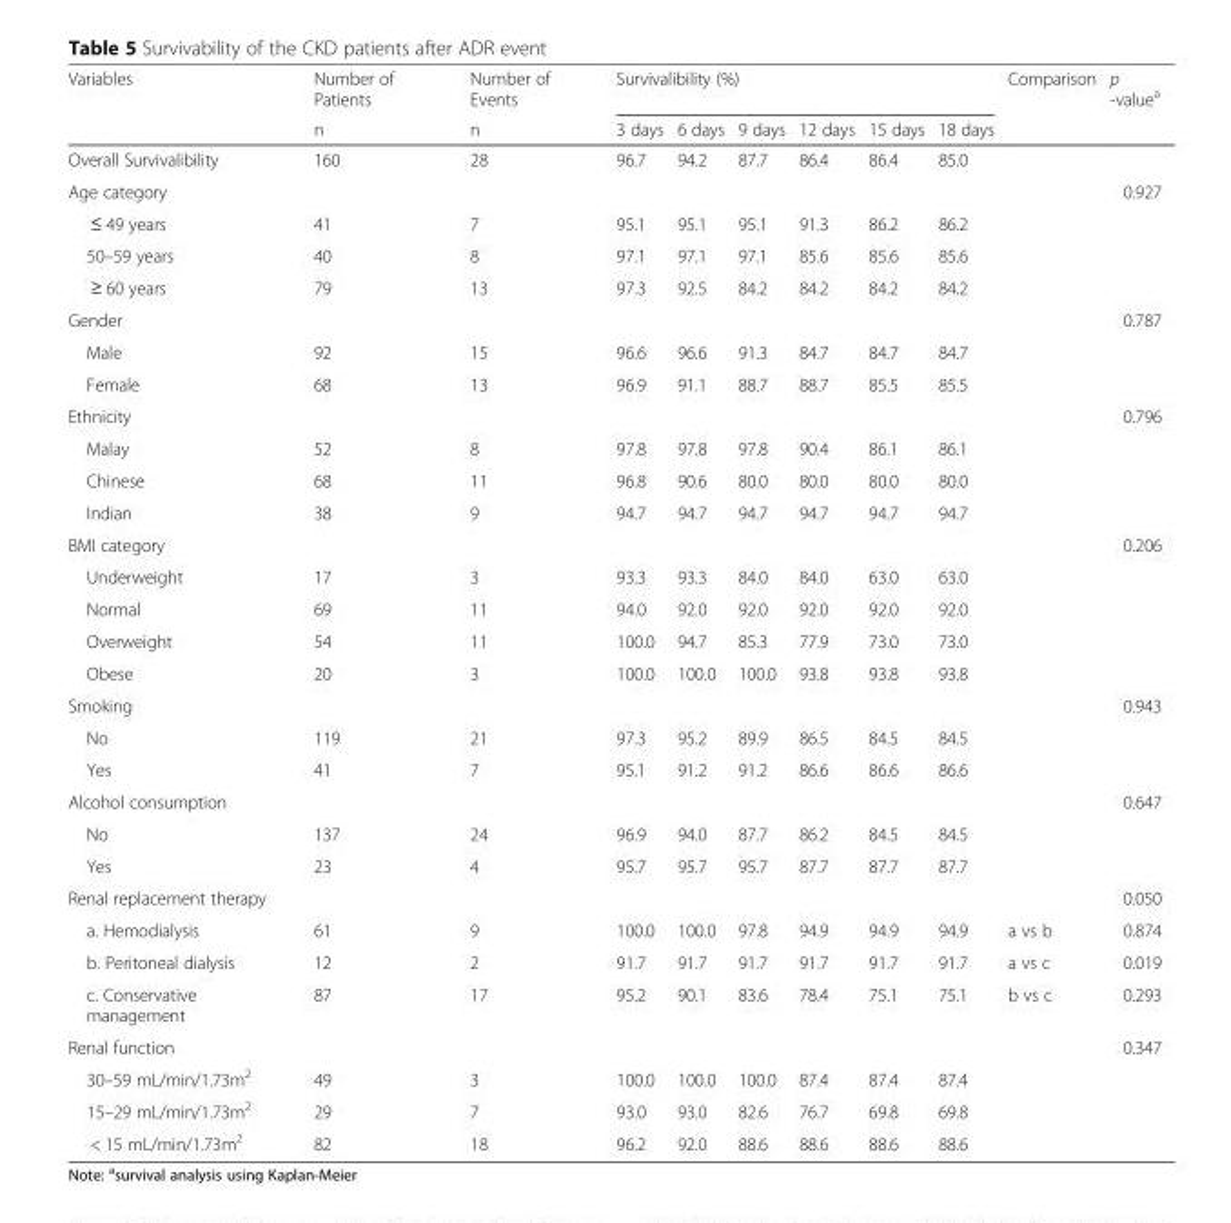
<table><thead><tr><td rowspan="2">Variables</td><td rowspan="2">Number of Patients n</td><td rowspan="2">Number of Events n</td><td colspan="6">Survivalibility (%)</td><td rowspan="2">Comparison</td><td rowspan="2">p -value<sup>a</sup></td></tr><tr><td>3 days</td><td>6 days</td><td>9 days</td><td>12 days</td><td>15 days</td><td>18 days</td></tr></thead><tbody><tr><td>Overall Survivalibility</td><td>160</td><td>28</td><td>96.7</td><td>94.2</td><td>87.7</td><td>86.4</td><td>86.4</td><td>85.0</td><td></td><td></td></tr><tr><td colspan="10">Age category</td><td>0.927</td></tr><tr><td>≤ 49 years</td><td>41</td><td>7</td><td>95.1</td><td>95.1</td><td>95.1</td><td>91.3</td><td>86.2</td><td>86.2</td><td></td><td></td></tr><tr><td>50–59 years</td><td>40</td><td>8</td><td>97.1</td><td>97.1</td><td>97.1</td><td>85.6</td><td>85.6</td><td>85.6</td><td></td><td></td></tr><tr><td>≥ 60 years</td><td>79</td><td>13</td><td>97.3</td><td>92.5</td><td>84.2</td><td>84.2</td><td>84.2</td><td>84.2</td><td></td><td></td></tr><tr><td colspan="10">Gender</td><td>0.787</td></tr><tr><td>Male</td><td>92</td><td>15</td><td>96.6</td><td>96.6</td><td>91.3</td><td>84.7</td><td>84.7</td><td>84.7</td><td></td><td></td></tr><tr><td>Female</td><td>68</td><td>13</td><td>96.9</td><td>91.1</td><td>88.7</td><td>88.7</td><td>85.5</td><td>85.5</td><td></td><td></td></tr><tr><td colspan="10">Ethnicity</td><td>0.796</td></tr><tr><td>Malay</td><td>52</td><td>8</td><td>97.8</td><td>97.8</td><td>97.8</td><td>90.4</td><td>86.1</td><td>86.1</td><td></td><td></td></tr><tr><td>Chinese</td><td>68</td><td>11</td><td>96.8</td><td>90.6</td><td>80.0</td><td>80.0</td><td>80.0</td><td>80.0</td><td></td><td></td></tr><tr><td>Indian</td><td>38</td><td>9</td><td>94.7</td><td>94.7</td><td>94.7</td><td>94.7</td><td>94.7</td><td>94.7</td><td></td><td></td></tr><tr><td colspan="10">BMI category</td><td>0.206</td></tr><tr><td>Underweight</td><td>17</td><td>3</td><td>93.3</td><td>93.3</td><td>84.0</td><td>84.0</td><td>63.0</td><td>63.0</td><td></td><td></td></tr><tr><td>Normal</td><td>69</td><td>11</td><td>94.0</td><td>92.0</td><td>92.0</td><td>92.0</td><td>92.0</td><td>92.0</td><td></td><td></td></tr><tr><td>Overweight</td><td>54</td><td>11</td><td>100.0</td><td>94.7</td><td>85.3</td><td>77.9</td><td>73.0</td><td>73.0</td><td></td><td></td></tr><tr><td>Obese</td><td>20</td><td>3</td><td>100.0</td><td>100.0</td><td>100.0</td><td>93.8</td><td>93.8</td><td>93.8</td><td></td><td></td></tr><tr><td colspan="10">Smoking</td><td>0.943</td></tr><tr><td>No</td><td>119</td><td>21</td><td>97.3</td><td>95.2</td><td>89.9</td><td>86.5</td><td>84.5</td><td>84.5</td><td></td><td></td></tr><tr><td>Yes</td><td>41</td><td>7</td><td>95.1</td><td>91.2</td><td>91.2</td><td>86.6</td><td>86.6</td><td>86.6</td><td></td><td></td></tr><tr><td colspan="10">Alcohol consumption</td><td>0.647</td></tr><tr><td>No</td><td>137</td><td>24</td><td>96.9</td><td>94.0</td><td>87.7</td><td>86.2</td><td>84.5</td><td>84.5</td><td></td><td></td></tr><tr><td>Yes</td><td>23</td><td>4</td><td>95.7</td><td>95.7</td><td>95.7</td><td>87.7</td><td>87.7</td><td>87.7</td><td></td><td></td></tr><tr><td colspan="10">Renal replacement therapy</td><td>0.050</td></tr><tr><td>a. Hemodialysis</td><td>61</td><td>9</td><td>100.0</td><td>100.0</td><td>97.8</td><td>94.9</td><td>94.9</td><td>94.9</td><td>a vs b</td><td>0.874</td></tr><tr><td>b. Peritoneal dialysis</td><td>12</td><td>2</td><td>91.7</td><td>91.7</td><td>91.7</td><td>91.7</td><td>91.7</td><td>91.7</td><td>a vs c</td><td>0.019</td></tr><tr><td>c. Conservative management</td><td>87</td><td>17</td><td>95.2</td><td>90.1</td><td>83.6</td><td>78.4</td><td>75.1</td><td>75.1</td><td>b vs c</td><td>0.293</td></tr><tr><td colspan="10">Renal function</td><td>0.347</td></tr><tr><td>30–59 mL/min/1.73m<sup>2</sup></td><td>49</td><td>3</td><td>100.0</td><td>100.0</td><td>100.0</td><td>87.4</td><td>87.4</td><td>87.4</td><td></td><td></td></tr><tr><td>15–29 mL/min/1.73m<sup>2</sup></td><td>29</td><td>7</td><td>93.0</td><td>93.0</td><td>82.6</td><td>76.7</td><td>69.8</td><td>69.8</td><td></td><td></td></tr><tr><td>&lt; 15 mL/min/1.73m<sup>2</sup></td><td>82</td><td>18</td><td>96.2</td><td>92.0</td><td>88.6</td><td>88.6</td><td>88.6</td><td>88.6</td><td></td><td></td></tr></tbody></table>